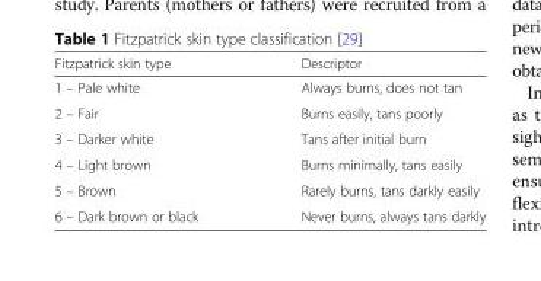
<table><thead><tr><td>Fitzpatrick skin type</td><td>Descriptor</td></tr></thead><tbody><tr><td>1 – Pale white</td><td>Always burns, does not tan</td></tr><tr><td>2 – Fair</td><td>Burns easily, tans poorly</td></tr><tr><td>3 – Darker white</td><td>Tans after initial burn</td></tr><tr><td>4 – Light brown</td><td>Burns minimally, tans easily</td></tr><tr><td>5 – Brown</td><td>Rarely burns, tans darkly easily</td></tr><tr><td>6 – Dark brown or black</td><td>Never burns, always tans darkly</td></tr></tbody></table>